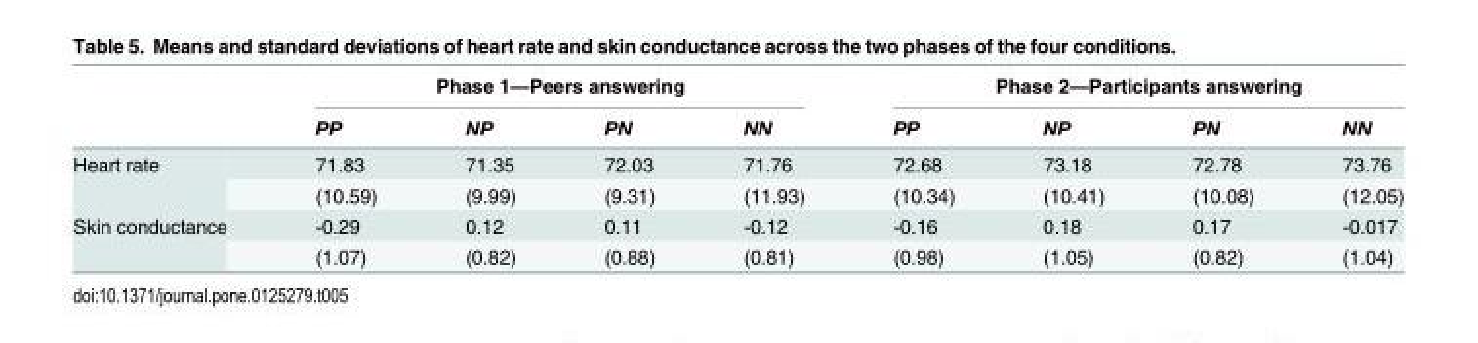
<table><thead><tr><td rowspan="2"></td><td colspan="4">Phase 1—Peers answering</td><td colspan="4">Phase 2—Participants answering</td></tr><tr><td>PP</td><td>NP</td><td>PN</td><td>NN</td><td>PP</td><td>NP</td><td>PN</td><td>NN</td></tr></thead><tbody><tr><td rowspan="2">Heart rate</td><td>71.83</td><td>71.35</td><td>72.03</td><td>71.76</td><td>72.68</td><td>73.18</td><td>72.78</td><td>73.76</td></tr><tr><td>(10.59)</td><td>(9.99)</td><td>(9.31)</td><td>(11.93)</td><td>(10.34)</td><td>(10.41)</td><td>(10.08)</td><td>(12.05)</td></tr><tr><td rowspan="2">Skin conductance</td><td>-0.29</td><td>0.12</td><td>0.11</td><td>-0.12</td><td>-0.16</td><td>0.18</td><td>0.17</td><td>-0.017</td></tr><tr><td>(1.07)</td><td>(0.82)</td><td>(0.88)</td><td>(0.81)</td><td>(0.98)</td><td>(1.05)</td><td>(0.82)</td><td>(1.04)</td></tr></tbody></table>